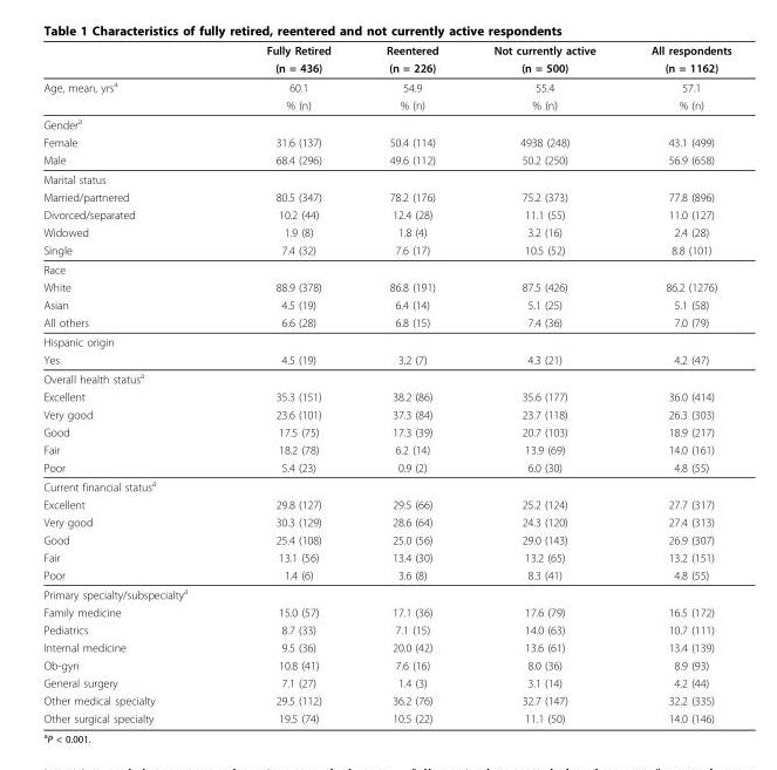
<table><thead><tr><td rowspan="2"></td><td rowspan="2">Fully Retired (n = 436)</td><td rowspan="2">Reentered (n = 226)</td><td rowspan="2">Not currently active (n = 500)</td><td rowspan="2">All respondents (n = 1162)</td></tr><tr></tr></thead><tbody><tr><td rowspan="2">Age, mean, yrsa</td><td>60.1</td><td>54.9</td><td>55.4</td><td>57.1</td></tr><tr><td>% (n)</td><td>% (n)</td><td>% (n)</td><td>% (n)</td></tr><tr><td colspan="5">Gender<sup>a</sup></td></tr><tr><td>Female</td><td>31.6 (137)</td><td>50.4 (114)</td><td>4938 (248)</td><td>43.1 (499)</td></tr><tr><td>Male</td><td>68.4 (296)</td><td>49.6 (112)</td><td>50.2 (250)</td><td>56.9 (658)</td></tr><tr><td colspan="5">Marital status</td></tr><tr><td>Married/partnered</td><td>80.5 (347)</td><td>78.2 (176)</td><td>75.2 (373)</td><td>77.8 (896)</td></tr><tr><td>Divorced/separated</td><td>10.2 (44)</td><td>12.4 (28)</td><td>11.1 (55)</td><td>11.0 (127)</td></tr><tr><td>Widowed</td><td>1.9 (8)</td><td>1.8 (4)</td><td>3.2 (16)</td><td>2.4 (28)</td></tr><tr><td>Single</td><td>7.4 (32)</td><td>7.6 (17)</td><td>10.5 (52)</td><td>8.8 (101)</td></tr><tr><td colspan="5">Race</td></tr><tr><td>White</td><td>88.9 (378)</td><td>86.8 (191)</td><td>87.5 (426)</td><td>86.2 (1276)</td></tr><tr><td>Asian</td><td>4.5 (19)</td><td>6.4 (14)</td><td>5.1 (25)</td><td>5.1 (58)</td></tr><tr><td>All others</td><td>6.6 (28)</td><td>6.8 (15)</td><td>7.4 (36)</td><td>7.0 (79)</td></tr><tr><td colspan="5">Hispanic origin</td></tr><tr><td>Yes</td><td>4.5 (19)</td><td>3.2 (7)</td><td>4.3 (21)</td><td>4.2 (47)</td></tr><tr><td colspan="5">Overall health status<sup>a</sup></td></tr><tr><td>Excellent</td><td>35.3 (151)</td><td>38.2 (86)</td><td>35.6 (177)</td><td>36.0 (414)</td></tr><tr><td>Very good</td><td>23.6 (101)</td><td>37.3 (84)</td><td>23.7 (118)</td><td>26.3 (303)</td></tr><tr><td>Good</td><td>17.5 (75)</td><td>17.3 (39)</td><td>20.7 (103)</td><td>18.9 (217)</td></tr><tr><td>Fair</td><td>18.2 (78)</td><td>6.2 (14)</td><td>13.9 (69)</td><td>14.0 (161)</td></tr><tr><td>Poor</td><td>5.4 (23)</td><td>0.9 (2)</td><td>6.0 (30)</td><td>4.8 (55)</td></tr><tr><td colspan="5">Current financial status<sup>a</sup></td></tr><tr><td>Excellent</td><td>29.8 (127)</td><td>29.5 (66)</td><td>25.2 (124)</td><td>27.7 (317)</td></tr><tr><td>Very good</td><td>30.3 (129)</td><td>28.6 (64)</td><td>24.3 (120)</td><td>27.4 (313)</td></tr><tr><td>Good</td><td>25.4 (108)</td><td>25.0 (56)</td><td>29.0 (143)</td><td>26.9 (307)</td></tr><tr><td>Fair</td><td>13.1 (56)</td><td>13.4 (30)</td><td>13.2 (65)</td><td>13.2 (151)</td></tr><tr><td>Poor</td><td>1.4 (6)</td><td>3.6 (8)</td><td>8.3 (41)</td><td>4.8 (55)</td></tr><tr><td colspan="5">Primary specialty/subspecialty<sup>a</sup></td></tr><tr><td>Family medicine</td><td>15.0 (57)</td><td>17.1 (36)</td><td>17.6 (79)</td><td>16.5 (172)</td></tr><tr><td>Pediatrics</td><td>8.7 (33)</td><td>7.1 (15)</td><td>14.0 (63)</td><td>10.7 (111)</td></tr><tr><td>Internal medicine</td><td>9.5 (36)</td><td>20.0 (42)</td><td>13.6 (61)</td><td>13.4 (139)</td></tr><tr><td>Ob-gyn</td><td>10.8 (41)</td><td>7.6 (16)</td><td>8.0 (36)</td><td>8.9 (93)</td></tr><tr><td>General surgery</td><td>7.1 (27)</td><td>1.4 (3)</td><td>3.1 (14)</td><td>4.2 (44)</td></tr><tr><td>Other medical specialty</td><td>29.5 (112)</td><td>36.2 (76)</td><td>32.7 (147)</td><td>32.2 (335)</td></tr><tr><td>Other surgical specialty</td><td>19.5 (74)</td><td>10.5 (22)</td><td>11.1 (50)</td><td>14.0 (146)</td></tr></tbody></table>